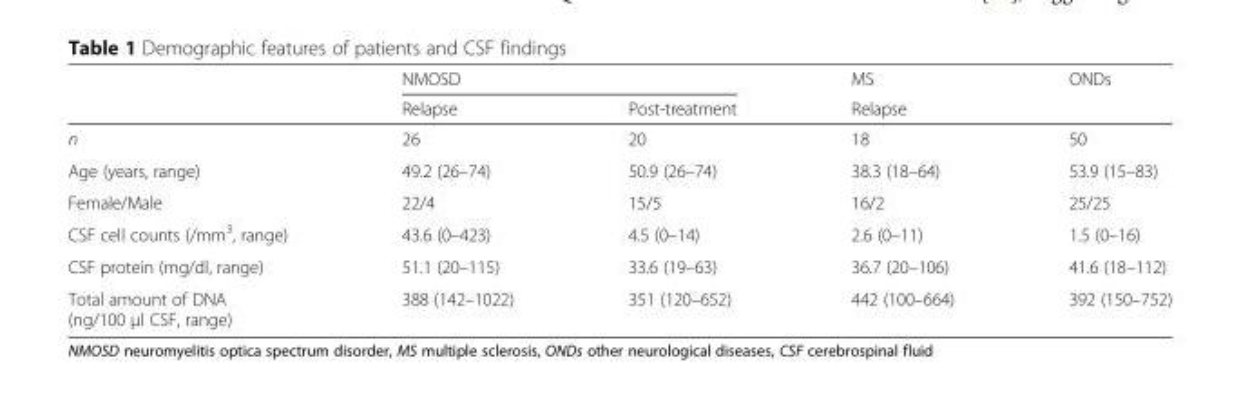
<table><thead><tr><td rowspan="2"></td><td colspan="2">NMOSD</td><td rowspan="2">MS Relapse</td><td rowspan="2">ONDs</td></tr><tr><td>Relapse</td><td>Post-treatment</td></tr></thead><tbody><tr><td>n</td><td>26</td><td>20</td><td>18</td><td>50</td></tr><tr><td>Age (years, range)</td><td>49.2 (26–74)</td><td>50.9 (26–74)</td><td>38.3 (18–64)</td><td>53.9 (15–83)</td></tr><tr><td>Female/Male</td><td>22/4</td><td>15/5</td><td>16/2</td><td>25/25</td></tr><tr><td>CSF cell counts (/mm<sup>3</sup>, range)</td><td>43.6 (0–423)</td><td>4.5 (0–14)</td><td>2.6 (0–11)</td><td>1.5 (0–16)</td></tr><tr><td>CSF protein (mg/dl, range)</td><td>51.1 (20–115)</td><td>33.6 (19–63)</td><td>36.7 (20–106)</td><td>41.6 (18–112)</td></tr><tr><td>Total amount of DNA (ng/100 μl CSF, range)</td><td>388 (142–1022)</td><td>351 (120–652)</td><td>442 (100–664)</td><td>392 (150–752)</td></tr></tbody></table>